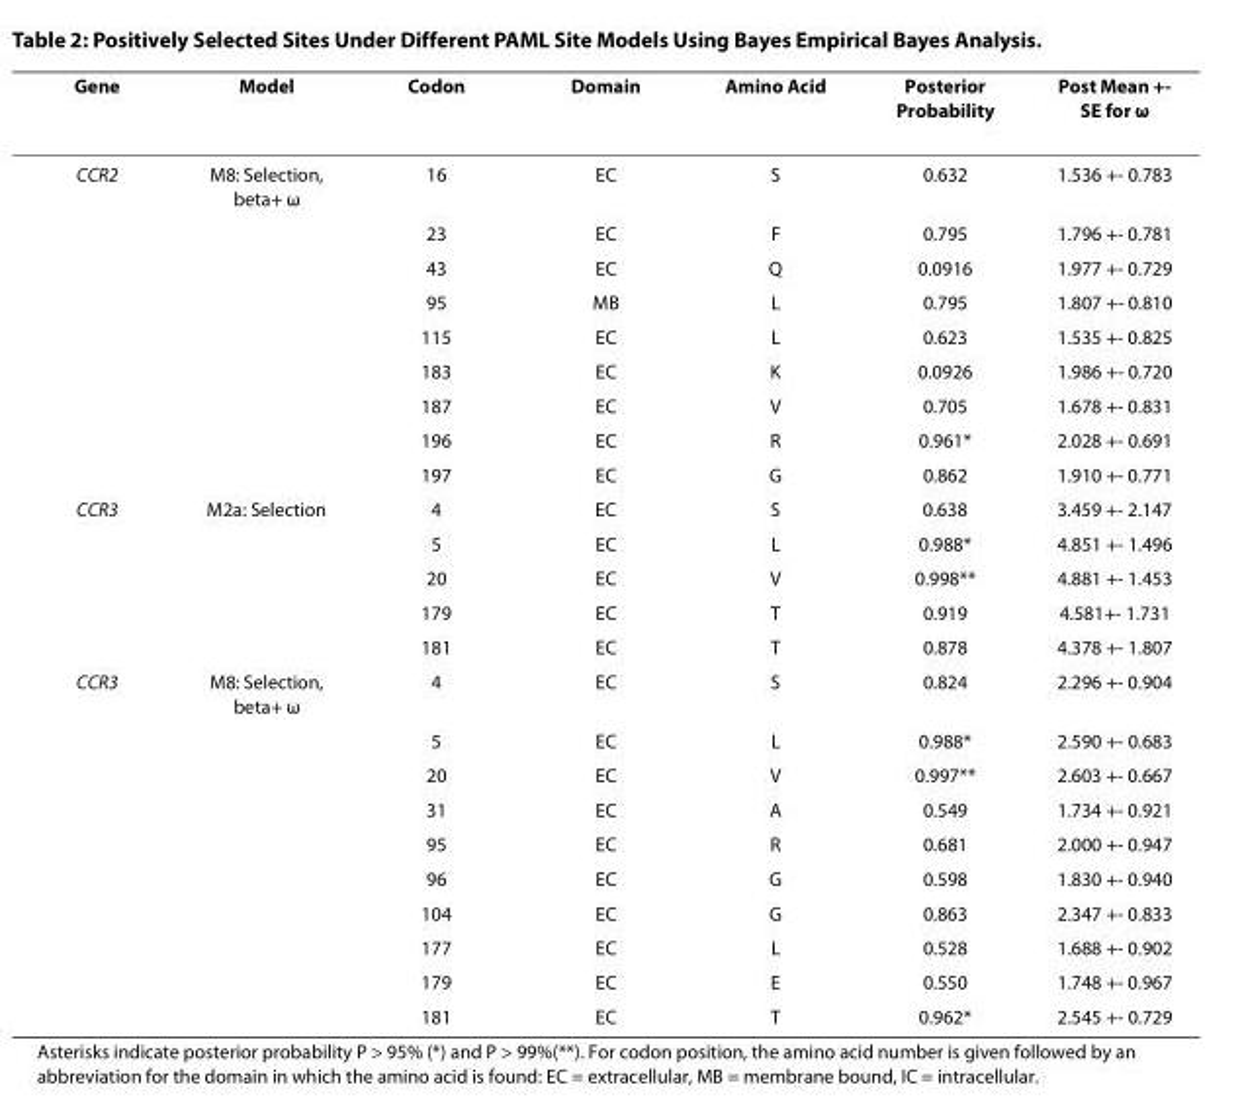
<table><thead><tr><td>Gene</td><td>Model</td><td>Codon</td><td>Domain</td><td>Amino Acid</td><td>Posterior Probability</td><td>Post Mean +- SE for ω</td></tr></thead><tbody><tr><td rowspan="9">CCR2</td><td>M8: Selection, beta+ ω</td><td>16</td><td>EC</td><td>S</td><td>0.632</td><td>1.536 +- 0.783</td></tr><tr><td></td><td>23</td><td>EC</td><td>F</td><td>0.795</td><td>1.796 +- 0.781</td></tr><tr><td></td><td>43</td><td>EC</td><td>Q</td><td>0.0916</td><td>1.977 +- 0.729</td></tr><tr><td></td><td>95</td><td>MB</td><td>L</td><td>0.795</td><td>1.807 +- 0.810</td></tr><tr><td></td><td>115</td><td>EC</td><td>L</td><td>0.623</td><td>1.535 +- 0.825</td></tr><tr><td></td><td>183</td><td>EC</td><td>K</td><td>0.0926</td><td>1.986 +- 0.720</td></tr><tr><td></td><td>187</td><td>EC</td><td>V</td><td>0.705</td><td>1.678 +- 0.831</td></tr><tr><td></td><td>196</td><td>EC</td><td>R</td><td>0.961*</td><td>2.028 +- 0.691</td></tr><tr><td></td><td>197</td><td>EC</td><td>G</td><td>0.862</td><td>1.910 +- 0.771</td></tr><tr><td rowspan="5">CCR3</td><td>M2a: Selection</td><td>4</td><td>EC</td><td>S</td><td>0.638</td><td>3.459 +- 2.147</td></tr><tr><td></td><td>5</td><td>EC</td><td>L</td><td>0.988*</td><td>4.851 +- 1.496</td></tr><tr><td></td><td>20</td><td>EC</td><td>V</td><td>0.998**</td><td>4.881 +- 1.453</td></tr><tr><td></td><td>179</td><td>EC</td><td>T</td><td>0.919</td><td>4.581+- 1.731</td></tr><tr><td></td><td>181</td><td>EC</td><td>T</td><td>0.878</td><td>4.378 +- 1.807</td></tr><tr><td rowspan="10">CCR3</td><td>M8: Selection, beta+ ω</td><td>4</td><td>EC</td><td>S</td><td>0.824</td><td>2.296 +- 0.904</td></tr><tr><td></td><td>5</td><td>EC</td><td>L</td><td>0.988*</td><td>2.590 +- 0.683</td></tr><tr><td></td><td>20</td><td>EC</td><td>V</td><td>0.997**</td><td>2.603 +- 0.667</td></tr><tr><td></td><td>31</td><td>EC</td><td>A</td><td>0.549</td><td>1.734 +- 0.921</td></tr><tr><td></td><td>95</td><td>EC</td><td>R</td><td>0.681</td><td>2.000 +- 0.947</td></tr><tr><td></td><td>96</td><td>EC</td><td>G</td><td>0.598</td><td>1.830 +- 0.940</td></tr><tr><td></td><td>104</td><td>EC</td><td>G</td><td>0.863</td><td>2.347 +- 0.833</td></tr><tr><td></td><td>177</td><td>EC</td><td>L</td><td>0.528</td><td>1.688 +- 0.902</td></tr><tr><td></td><td>179</td><td>EC</td><td>E</td><td>0.550</td><td>1.748 +- 0.967</td></tr><tr><td></td><td>181</td><td>EC</td><td>T</td><td>0.962*</td><td>2.545 +- 0.729</td></tr></tbody></table>